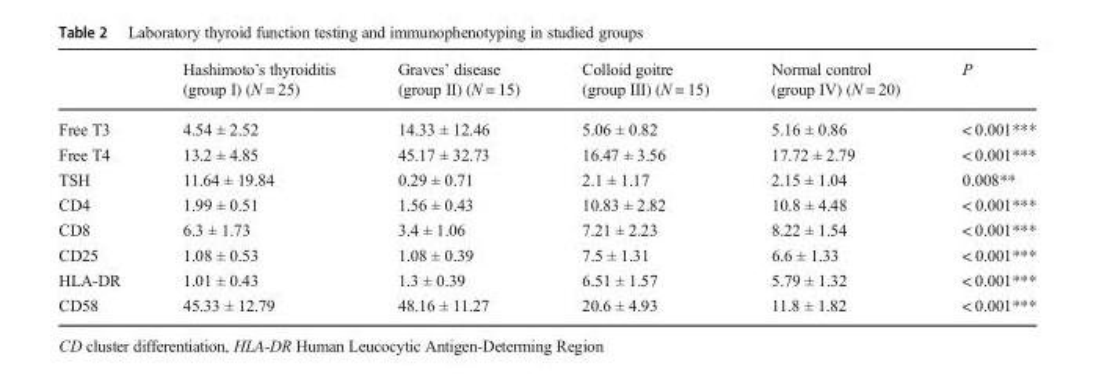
<table><thead><tr><td></td><td>Hashimoto’s thyroiditis (group I) (N = 25)</td><td>Graves’ disease (group II) (N = 15)</td><td>Colloid goitre (group III) (N = 15)</td><td>Normal control (group IV) (N = 20)</td><td>P</td></tr></thead><tbody><tr><td>Free T3</td><td>4.54 ± 2.52</td><td>14.33 ± 12.46</td><td>5.06 ± 0.82</td><td>5.16 ± 0.86</td><td>&lt; 0.001***</td></tr><tr><td>Free T4</td><td>13.2 ± 4.85</td><td>45.17 ± 32.73</td><td>16.47 ± 3.56</td><td>17.72 ± 2.79</td><td>&lt; 0.001***</td></tr><tr><td>TSH</td><td>11.64 ± 19.84</td><td>0.29 ± 0.71</td><td>2.1 ± 1.17</td><td>2.15 ± 1.04</td><td>0.008**</td></tr><tr><td>CD4</td><td>1.99 ± 0.51</td><td>1.56 ± 0.43</td><td>10.83 ± 2.82</td><td>10.8 ± 4.48</td><td>&lt; 0.001***</td></tr><tr><td>CD8</td><td>6.3 ± 1.73</td><td>3.4 ± 1.06</td><td>7.21 ± 2.23</td><td>8.22 ± 1.54</td><td>&lt; 0.001***</td></tr><tr><td>CD25</td><td>1.08 ± 0.53</td><td>1.08 ± 0.39</td><td>7.5 ± 1.31</td><td>6.6 ± 1.33</td><td>&lt; 0.001***</td></tr><tr><td>HLA-DR</td><td>1.01 ± 0.43</td><td>1.3 ± 0.39</td><td>6.51 ± 1.57</td><td>5.79 ± 1.32</td><td>&lt; 0.001***</td></tr><tr><td>CD58</td><td>45.33 ± 12.79</td><td>48.16 ± 11.27</td><td>20.6 ± 4.93</td><td>11.8 ± 1.82</td><td>&lt; 0.001***</td></tr></tbody></table>